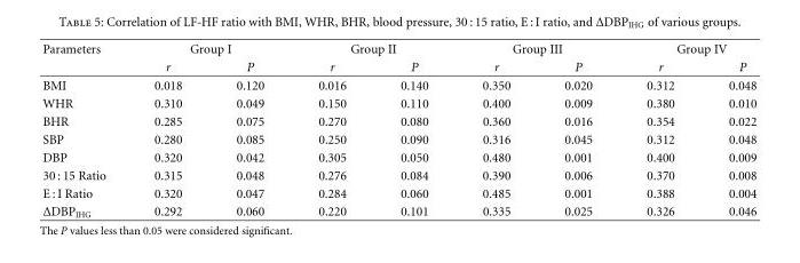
<table><thead><tr><td rowspan="2">Parameters</td><td colspan="2">Group I</td><td colspan="2">Group II</td><td colspan="2">Group III</td><td colspan="2">Group IV</td></tr><tr><td>r</td><td>P</td><td>r</td><td>P</td><td>r</td><td>P</td><td>r</td><td>P</td></tr></thead><tbody><tr><td>BMI</td><td>0.018</td><td>0.120</td><td>0.016</td><td>0.140</td><td>0.350</td><td>0.020</td><td>0.312</td><td>0.048</td></tr><tr><td>WHR</td><td>0.310</td><td>0.049</td><td>0.150</td><td>0.110</td><td>0.400</td><td>0.009</td><td>0.380</td><td>0.010</td></tr><tr><td>BHR</td><td>0.285</td><td>0.075</td><td>0.270</td><td>0.080</td><td>0.360</td><td>0.016</td><td>0.354</td><td>0.022</td></tr><tr><td>SBP</td><td>0.280</td><td>0.085</td><td>0.250</td><td>0.090</td><td>0.316</td><td>0.045</td><td>0.312</td><td>0.048</td></tr><tr><td>DBP</td><td>0.320</td><td>0.042</td><td>0.305</td><td>0.050</td><td>0.480</td><td>0.001</td><td>0.400</td><td>0.009</td></tr><tr><td>30 : 15 Ratio</td><td>0.315</td><td>0.048</td><td>0.276</td><td>0.084</td><td>0.390</td><td>0.006</td><td>0.370</td><td>0.008</td></tr><tr><td>E : I Ratio</td><td>0.320</td><td>0.047</td><td>0.284</td><td>0.060</td><td>0.485</td><td>0.001</td><td>0.388</td><td>0.004</td></tr><tr><td>ΔDBP<sub>IHG</sub></td><td>0.292</td><td>0.060</td><td>0.220</td><td>0.101</td><td>0.335</td><td>0.025</td><td>0.326</td><td>0.046</td></tr></tbody></table>